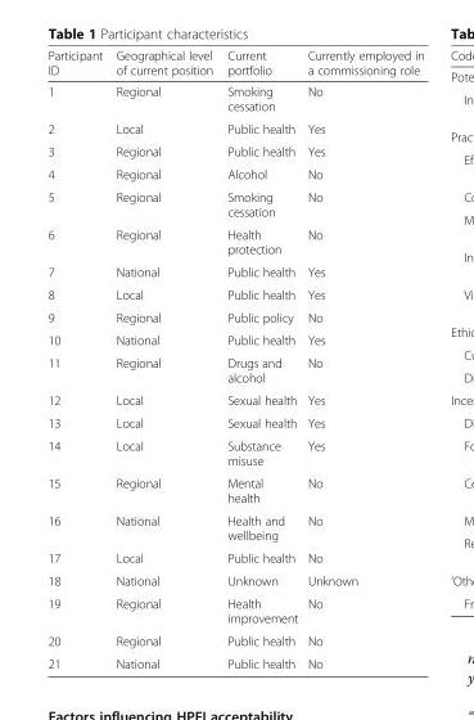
<table><thead><tr><td>Participant ID</td><td>Geographical level of current position</td><td>Current portfolio</td><td>Currently employed in a commissioning role</td></tr></thead><tbody><tr><td>1</td><td>Regional</td><td>Smoking cessation</td><td>No</td></tr><tr><td>2</td><td>Local</td><td>Public health</td><td>Yes</td></tr><tr><td>3</td><td>Regional</td><td>Public health</td><td>Yes</td></tr><tr><td>4</td><td>Regional</td><td>Alcohol</td><td>No</td></tr><tr><td>5</td><td>Regional</td><td>Smoking cessation</td><td>No</td></tr><tr><td>6</td><td>Regional</td><td>Health protection</td><td>No</td></tr><tr><td>7</td><td>National</td><td>Public health</td><td>Yes</td></tr><tr><td>8</td><td>Local</td><td>Public health</td><td>Yes</td></tr><tr><td>9</td><td>Regional</td><td>Public policy</td><td>No</td></tr><tr><td>10</td><td>National</td><td>Public health</td><td>Yes</td></tr><tr><td>11</td><td>Regional</td><td>Drugs and alcohol</td><td>No</td></tr><tr><td>12</td><td>Local</td><td>Sexual health</td><td>Yes</td></tr><tr><td>13</td><td>Local</td><td>Sexual health</td><td>Yes</td></tr><tr><td>14</td><td>Local</td><td>Substance misuse</td><td>Yes</td></tr><tr><td>15</td><td>Regional</td><td>Mental health</td><td>No</td></tr><tr><td>16</td><td>National</td><td>Health and wellbeing</td><td>No</td></tr><tr><td>17</td><td>Local</td><td>Public health</td><td>No</td></tr><tr><td>18</td><td>National</td><td>Unknown</td><td>Unknown</td></tr><tr><td>19</td><td>Regional</td><td>Health improvement</td><td>No</td></tr><tr><td>20</td><td>Regional</td><td>Public health</td><td>No</td></tr><tr><td>21</td><td>National</td><td>Public health</td><td>No</td></tr></tbody></table>